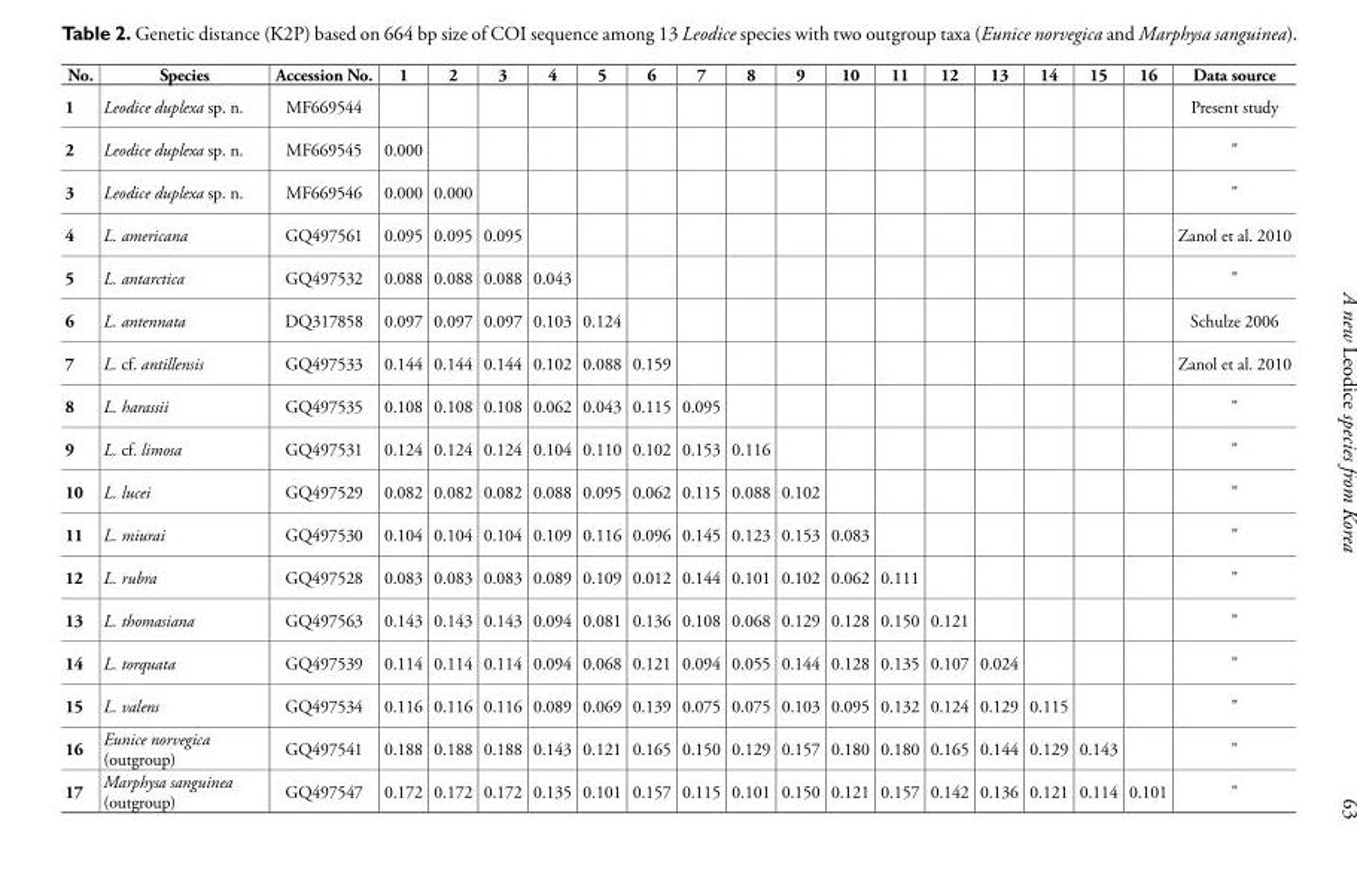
<table><thead><tr><td>No.</td><td>Species</td><td>Accession No.</td><td>1</td><td>2</td><td>3</td><td>4</td><td>5</td><td>6</td><td>7</td><td>8</td><td>9</td><td>10</td><td>11</td><td>12</td><td>13</td><td>14</td><td>15</td><td>16</td><td>Data source</td></tr></thead><tbody><tr><td>1</td><td>Leodice duplexa sp. n.</td><td>MF669544</td><td></td><td></td><td></td><td></td><td></td><td></td><td></td><td></td><td></td><td></td><td></td><td></td><td></td><td></td><td></td><td></td><td>Present study</td></tr><tr><td>2</td><td>Leodice duplexa sp. n.</td><td>MF669545</td><td>0.000</td><td></td><td></td><td></td><td></td><td></td><td></td><td></td><td></td><td></td><td></td><td></td><td></td><td></td><td></td><td></td><td>&quot;</td></tr><tr><td>3</td><td>Leodice duplexa sp. n.</td><td>MF669546</td><td>0.000</td><td>0.000</td><td></td><td></td><td></td><td></td><td></td><td></td><td></td><td></td><td></td><td></td><td></td><td></td><td></td><td></td><td>&quot;</td></tr><tr><td>4</td><td>L. americana</td><td>GQ497561</td><td>0.095</td><td>0.095</td><td>0.095</td><td></td><td></td><td></td><td></td><td></td><td></td><td></td><td></td><td></td><td></td><td></td><td></td><td></td><td>Zanol et al. 2010</td></tr><tr><td>5</td><td>L. antarctica</td><td>GQ497532</td><td>0.088</td><td>0.088</td><td>0.088</td><td>0.043</td><td></td><td></td><td></td><td></td><td></td><td></td><td></td><td></td><td></td><td></td><td></td><td></td><td>&quot;</td></tr><tr><td>6</td><td>L. antennata</td><td>DQ317858</td><td>0.097</td><td>0.097</td><td>0.097</td><td>0.103</td><td>0.124</td><td></td><td></td><td></td><td></td><td></td><td></td><td></td><td></td><td></td><td></td><td></td><td>Schulze 2006</td></tr><tr><td>7</td><td>L. cf. antillensis</td><td>GQ497533</td><td>0.144</td><td>0.144</td><td>0.144</td><td>0.102</td><td>0.088</td><td>0.159</td><td></td><td></td><td></td><td></td><td></td><td></td><td></td><td></td><td></td><td></td><td>Zanol et al. 2010</td></tr><tr><td>8</td><td>L. harassii</td><td>GQ497535</td><td>0.108</td><td>0.108</td><td>0.108</td><td>0.062</td><td>0.043</td><td>0.115</td><td>0.095</td><td></td><td></td><td></td><td></td><td></td><td></td><td></td><td></td><td></td><td>&quot;</td></tr><tr><td>9</td><td>L. cf. limosa</td><td>GQ497531</td><td>0.124</td><td>0.124</td><td>0.124</td><td>0.104</td><td>0.110</td><td>0.102</td><td>0.153</td><td>0.116</td><td></td><td></td><td></td><td></td><td></td><td></td><td></td><td></td><td>&quot;</td></tr><tr><td>10</td><td>L. lucei</td><td>GQ497529</td><td>0.082</td><td>0.082</td><td>0.082</td><td>0.088</td><td>0.095</td><td>0.062</td><td>0.115</td><td>0.088</td><td>0.102</td><td></td><td></td><td></td><td></td><td></td><td></td><td></td><td>&quot;</td></tr><tr><td>11</td><td>L. miurai</td><td>GQ497530</td><td>0.104</td><td>0.104</td><td>0.104</td><td>0.109</td><td>0.116</td><td>0.096</td><td>0.145</td><td>0.123</td><td>0.153</td><td>0.083</td><td></td><td></td><td></td><td></td><td></td><td></td><td>&quot;</td></tr><tr><td>12</td><td>L. rubra</td><td>GQ497528</td><td>0.083</td><td>0.083</td><td>0.083</td><td>0.089</td><td>0.109</td><td>0.012</td><td>0.144</td><td>0.101</td><td>0.102</td><td>0.062</td><td>0.111</td><td></td><td></td><td></td><td></td><td></td><td>&quot;</td></tr><tr><td>13</td><td>L. thomasiana</td><td>GQ497563</td><td>0.143</td><td>0.143</td><td>0.143</td><td>0.094</td><td>0.081</td><td>0.136</td><td>0.108</td><td>0.068</td><td>0.129</td><td>0.128</td><td>0.150</td><td>0.121</td><td></td><td></td><td></td><td></td><td>&quot;</td></tr><tr><td>14</td><td>L. torquata</td><td>GQ497539</td><td>0.114</td><td>0.114</td><td>0.114</td><td>0.094</td><td>0.068</td><td>0.121</td><td>0.094</td><td>0.055</td><td>0.144</td><td>0.128</td><td>0.135</td><td>0.107</td><td>0.024</td><td></td><td></td><td></td><td>&quot;</td></tr><tr><td>15</td><td>L. valens</td><td>GQ497534</td><td>0.116</td><td>0.116</td><td>0.116</td><td>0.089</td><td>0.069</td><td>0.139</td><td>0.075</td><td>0.075</td><td>0.103</td><td>0.095</td><td>0.132</td><td>0.124</td><td>0.129</td><td>0.115</td><td></td><td></td><td>&quot;</td></tr><tr><td>16</td><td>Eunice norvegica (outgroup)</td><td>GQ497541</td><td>0.188</td><td>0.188</td><td>0.188</td><td>0.143</td><td>0.121</td><td>0.165</td><td>0.150</td><td>0.129</td><td>0.157</td><td>0.180</td><td>0.180</td><td>0.165</td><td>0.144</td><td>0.129</td><td>0.143</td><td></td><td>&quot;</td></tr><tr><td>17</td><td>Marphysa sanguinea (outgroup)</td><td>GQ497547</td><td>0.172</td><td>0.172</td><td>0.172</td><td>0.135</td><td>0.101</td><td>0.157</td><td>0.115</td><td>0.101</td><td>0.150</td><td>0.121</td><td>0.157</td><td>0.142</td><td>0.136</td><td>0.121</td><td>0.114</td><td>0.101</td><td>&quot;</td></tr></tbody></table>